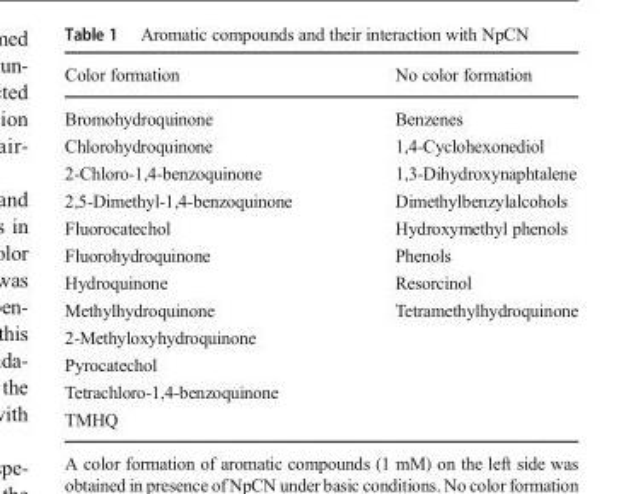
<table><thead><tr><td>Color formation</td><td>No color formation</td></tr></thead><tbody><tr><td>Bromohydroquinone</td><td>Benzenes</td></tr><tr><td>Chlorohydroquinone</td><td>1,4-Cyclohexonediol</td></tr><tr><td>2-Chloro-1,4-benzoquinone</td><td>1,3-Dihydroxynaphtalene</td></tr><tr><td>2,5-Dimethyl-1,4-benzoquinone</td><td>Dimethylbenzylalcohols</td></tr><tr><td>Fluorocatechol</td><td>Hydroxymethyl phenols</td></tr><tr><td>Fluorohydroquinone</td><td>Phenols</td></tr><tr><td>Hydroquinone</td><td>Resorcinol</td></tr><tr><td>Methylhydroquinone</td><td>Tetramethylhydroquinone</td></tr><tr><td colspan="2">2-Methyloxyhydroquinone</td></tr><tr><td colspan="2">Pyrocatechol</td></tr><tr><td colspan="2">Tetrachloro-1,4-benzoquinone</td></tr><tr><td>TMHQ</td><td></td></tr></tbody></table>